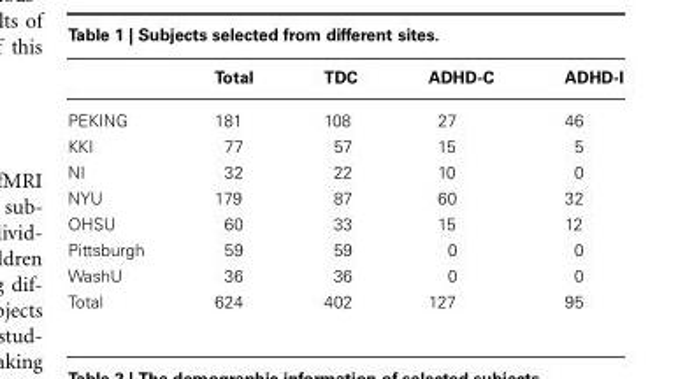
<table><thead><tr><td></td><td>Total</td><td>TDC</td><td>ADHD-C</td><td>ADHD-I</td></tr></thead><tbody><tr><td>PEKING</td><td>181</td><td>108</td><td>27</td><td>46</td></tr><tr><td>KKI</td><td>77</td><td>57</td><td>15</td><td>5</td></tr><tr><td>NI</td><td>32</td><td>22</td><td>10</td><td>0</td></tr><tr><td>NYU</td><td>179</td><td>87</td><td>60</td><td>32</td></tr><tr><td>OHSU</td><td>60</td><td>33</td><td>15</td><td>12</td></tr><tr><td>Pittsburgh</td><td>59</td><td>59</td><td>0</td><td>0</td></tr><tr><td>WashU</td><td>36</td><td>36</td><td>0</td><td>0</td></tr><tr><td>Total</td><td>624</td><td>402</td><td>127</td><td>95</td></tr></tbody></table>